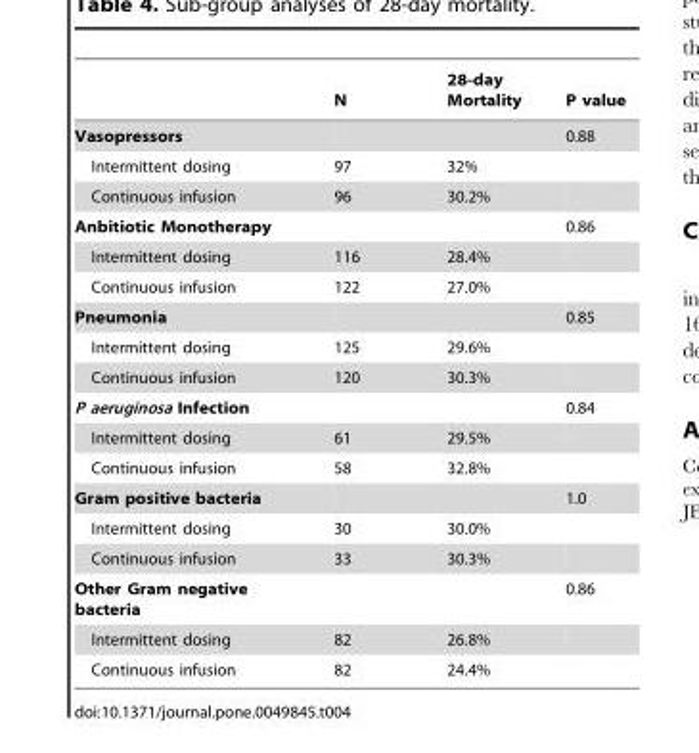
<table><thead><tr><td></td><td>N</td><td>28-day Mortality</td><td>P value</td></tr></thead><tbody><tr><td>Vasopressors</td><td colspan="2"></td><td>0.88</td></tr><tr><td>Intermittent dosing</td><td>97</td><td>32%</td><td></td></tr><tr><td>Continuous infusion</td><td>96</td><td>30.2%</td><td></td></tr><tr><td>Anbitiotic Monotherapy</td><td colspan="2"></td><td>0.86</td></tr><tr><td>Intermittent dosing</td><td>116</td><td>28.4%</td><td></td></tr><tr><td>Continuous infusion</td><td>122</td><td>27.0%</td><td></td></tr><tr><td>Pneumonia</td><td colspan="2"></td><td>0.85</td></tr><tr><td>Intermittent dosing</td><td>125</td><td>29.6%</td><td></td></tr><tr><td>Continuous infusion</td><td>120</td><td>30.3%</td><td></td></tr><tr><td>P aeruginosa Infection</td><td colspan="2"></td><td>0.84</td></tr><tr><td>Intermittent dosing</td><td>61</td><td>29.5%</td><td></td></tr><tr><td>Continuous infusion</td><td>58</td><td>32.8%</td><td></td></tr><tr><td>Gram positive bacteria</td><td colspan="2"></td><td>1.0</td></tr><tr><td>Intermittent dosing</td><td>30</td><td>30.0%</td><td></td></tr><tr><td>Continuous infusion</td><td>33</td><td>30.3%</td><td></td></tr><tr><td>Other Gram negative bacteria</td><td colspan="2"></td><td>0.86</td></tr><tr><td>Intermittent dosing</td><td>82</td><td>26.8%</td><td></td></tr><tr><td>Continuous infusion</td><td>82</td><td>24.4%</td><td></td></tr></tbody></table>